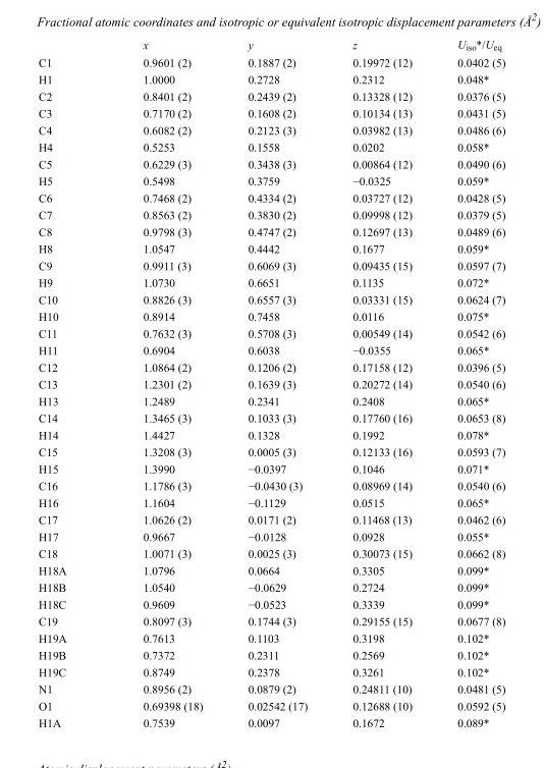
<table><thead><tr><td></td><td>x</td><td>y</td><td>z</td><td>U<sub>iso</sub>*/U<sub>eq</sub></td></tr></thead><tbody><tr><td>C1</td><td>0.9601 (2)</td><td>0.1887 (2)</td><td>0.19972 (12)</td><td>0.0402 (5)</td></tr><tr><td>H1</td><td>1.0000</td><td>0.2728</td><td>0.2312</td><td>0.048*</td></tr><tr><td>C2</td><td>0.8401 (2)</td><td>0.2439 (2)</td><td>0.13328 (12)</td><td>0.0376 (5)</td></tr><tr><td>C3</td><td>0.7170 (2)</td><td>0.1608 (2)</td><td>0.10134 (13)</td><td>0.0431 (5)</td></tr><tr><td>C4</td><td>0.6082 (2)</td><td>0.2123 (3)</td><td>0.03982 (13)</td><td>0.0486 (6)</td></tr><tr><td>H4</td><td>0.5253</td><td>0.1558</td><td>0.0202</td><td>0.058*</td></tr><tr><td>C5</td><td>0.6229 (3)</td><td>0.3438 (3)</td><td>0.00864 (12)</td><td>0.0490 (6)</td></tr><tr><td>H5</td><td>0.5498</td><td>0.3759</td><td>−0.0325</td><td>0.059*</td></tr><tr><td>C6</td><td>0.7468 (2)</td><td>0.4334 (2)</td><td>0.03727 (12)</td><td>0.0428 (5)</td></tr><tr><td>C7</td><td>0.8563 (2)</td><td>0.3830 (2)</td><td>0.09998 (12)</td><td>0.0379 (5)</td></tr><tr><td>C8</td><td>0.9798 (3)</td><td>0.4747 (2)</td><td>0.12697 (13)</td><td>0.0489 (6)</td></tr><tr><td>H8</td><td>1.0547</td><td>0.4442</td><td>0.1677</td><td>0.059*</td></tr><tr><td>C9</td><td>0.9911 (3)</td><td>0.6069 (3)</td><td>0.09435 (15)</td><td>0.0597 (7)</td></tr><tr><td>H9</td><td>1.0730</td><td>0.6651</td><td>0.1135</td><td>0.072*</td></tr><tr><td>C10</td><td>0.8826 (3)</td><td>0.6557 (3)</td><td>0.03331 (15)</td><td>0.0624 (7)</td></tr><tr><td>H10</td><td>0.8914</td><td>0.7458</td><td>0.0116</td><td>0.075*</td></tr><tr><td>C11</td><td>0.7632 (3)</td><td>0.5708 (3)</td><td>0.00549 (14)</td><td>0.0542 (6)</td></tr><tr><td>H11</td><td>0.6904</td><td>0.6038</td><td>−0.0355</td><td>0.065*</td></tr><tr><td>C12</td><td>1.0864 (2)</td><td>0.1206 (2)</td><td>0.17158 (12)</td><td>0.0396 (5)</td></tr><tr><td>C13</td><td>1.2301 (2)</td><td>0.1639 (3)</td><td>0.20272 (14)</td><td>0.0540 (6)</td></tr><tr><td>H13</td><td>1.2489</td><td>0.2341</td><td>0.2408</td><td>0.065*</td></tr><tr><td>C14</td><td>1.3465 (3)</td><td>0.1033 (3)</td><td>0.17760 (16)</td><td>0.0653 (8)</td></tr><tr><td>H14</td><td>1.4427</td><td>0.1328</td><td>0.1992</td><td>0.078*</td></tr><tr><td>C15</td><td>1.3208 (3)</td><td>0.0005 (3)</td><td>0.12133 (16)</td><td>0.0593 (7)</td></tr><tr><td>H15</td><td>1.3990</td><td>−0.0397</td><td>0.1046</td><td>0.071*</td></tr><tr><td>C16</td><td>1.1786 (3)</td><td>−0.0430 (3)</td><td>0.08969 (14)</td><td>0.0540 (6)</td></tr><tr><td>H16</td><td>1.1604</td><td>−0.1129</td><td>0.0515</td><td>0.065*</td></tr><tr><td>C17</td><td>1.0626 (2)</td><td>0.0171 (2)</td><td>0.11468 (13)</td><td>0.0462 (6)</td></tr><tr><td>H17</td><td>0.9667</td><td>−0.0128</td><td>0.0928</td><td>0.055*</td></tr><tr><td>C18</td><td>1.0071 (3)</td><td>0.0025 (3)</td><td>0.30073 (15)</td><td>0.0662 (8)</td></tr><tr><td>H18A</td><td>1.0796</td><td>0.0664</td><td>0.3305</td><td>0.099*</td></tr><tr><td>H18B</td><td>1.0540</td><td>−0.0629</td><td>0.2724</td><td>0.099*</td></tr><tr><td>H18C</td><td>0.9609</td><td>−0.0523</td><td>0.3339</td><td>0.099*</td></tr><tr><td>C19</td><td>0.8097 (3)</td><td>0.1744 (3)</td><td>0.29155 (15)</td><td>0.0677 (8)</td></tr><tr><td>H19A</td><td>0.7613</td><td>0.1103</td><td>0.3198</td><td>0.102*</td></tr><tr><td>H19B</td><td>0.7372</td><td>0.2311</td><td>0.2569</td><td>0.102*</td></tr><tr><td>H19C</td><td>0.8749</td><td>0.2378</td><td>0.3261</td><td>0.102*</td></tr><tr><td>N1</td><td>0.8956 (2)</td><td>0.0879 (2)</td><td>0.24811 (10)</td><td>0.0481 (5)</td></tr><tr><td>O1</td><td>0.69398 (18)</td><td>0.02542 (17)</td><td>0.12688 (10)</td><td>0.0592 (5)</td></tr><tr><td>H1A</td><td>0.7539</td><td>0.0097</td><td>0.1672</td><td>0.089*</td></tr></tbody></table>